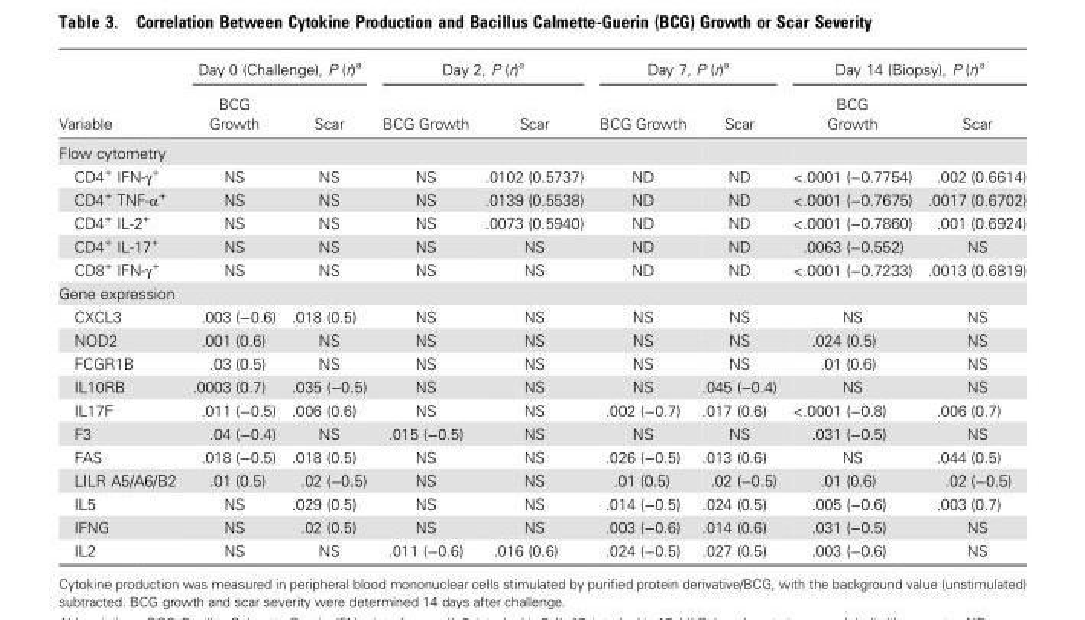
<table><thead><tr><td rowspan="2">Variable</td><td colspan="2">Day 0 (Challenge), P (r)<sup>a</sup></td><td colspan="2">Day 2, P (r)<sup>a</sup></td><td colspan="2">Day 7, P (r)<sup>a</sup></td><td colspan="2">Day 14 (Biopsy), P (r)<sup>a</sup></td></tr><tr><td>BCG Growth</td><td>Scar</td><td>BCG Growth</td><td>Scar</td><td>BCG Growth</td><td>Scar</td><td>BCG Growth</td><td>Scar</td></tr></thead><tbody><tr><td colspan="9">Flow cytometry</td></tr><tr><td>CD4<sup>+</sup> IFN-γ<sup>+</sup></td><td>NS</td><td>NS</td><td>NS</td><td>.0102 (0.5737)</td><td>ND</td><td>ND</td><td>&lt;.0001 (−0.7754)</td><td>.002 (0.6614)</td></tr><tr><td>CD4<sup>+</sup> TNF-α<sup>+</sup></td><td>NS</td><td>NS</td><td>NS</td><td>.0139 (0.5538)</td><td>ND</td><td>ND</td><td>&lt;.0001 (−0.7675)</td><td>.0017 (0.6702)</td></tr><tr><td>CD4<sup>+</sup> IL-2<sup>+</sup></td><td>NS</td><td>NS</td><td>NS</td><td>.0073 (0.5940)</td><td>ND</td><td>ND</td><td>&lt;.0001 (−0.7860)</td><td>.001 (0.6924)</td></tr><tr><td>CD4<sup>+</sup> IL-17<sup>+</sup></td><td>NS</td><td>NS</td><td>NS</td><td>NS</td><td>ND</td><td>ND</td><td>.0063 (−0.552)</td><td>NS</td></tr><tr><td>CD8<sup>+</sup> IFN-γ<sup>+</sup></td><td>NS</td><td>NS</td><td>NS</td><td>NS</td><td>ND</td><td>ND</td><td>&lt;.0001 (−0.7233)</td><td>.0013 (0.6819)</td></tr><tr><td colspan="9">Gene expression</td></tr><tr><td>CXCL3</td><td>.003 (−0.6)</td><td>.018 (0.5)</td><td>NS</td><td>NS</td><td>NS</td><td>NS</td><td>NS</td><td>NS</td></tr><tr><td>NOD2</td><td>.001 (0.6)</td><td>NS</td><td>NS</td><td>NS</td><td>NS</td><td>NS</td><td>.024 (0.5)</td><td>NS</td></tr><tr><td>FCGR1B</td><td>.03 (0.5)</td><td>NS</td><td>NS</td><td>NS</td><td>NS</td><td>NS</td><td>.01 (0.6)</td><td>NS</td></tr><tr><td>IL10RB</td><td>.0003 (0.7)</td><td>.035 (−0.5)</td><td>NS</td><td>NS</td><td>NS</td><td>.045 (−0.4)</td><td>NS</td><td>NS</td></tr><tr><td>IL17F</td><td>.011 (−0.5)</td><td>.006 (0.6)</td><td>NS</td><td>NS</td><td>.002 (−0.7)</td><td>.017 (0.6)</td><td>&lt;.0001 (−0.8)</td><td>.006 (0.7)</td></tr><tr><td>F3</td><td>.04 (−0.4)</td><td>NS</td><td>.015 (−0.5)</td><td>NS</td><td>NS</td><td>NS</td><td>.031 (−0.5)</td><td>NS</td></tr><tr><td>FAS</td><td>.018 (−0.5)</td><td>.018 (0.5)</td><td>NS</td><td>NS</td><td>.026 (−0.5)</td><td>.013 (0.6)</td><td>NS</td><td>.044 (0.5)</td></tr><tr><td>LILR A5/A6/B2</td><td>.01 (0.5)</td><td>.02 (−0.5)</td><td>NS</td><td>NS</td><td>.01 (0.5)</td><td>.02 (−0.5)</td><td>.01 (0.6)</td><td>.02 (−0.5)</td></tr><tr><td>IL5</td><td>NS</td><td>.029 (0.5)</td><td>NS</td><td>NS</td><td>.014 (−0.5)</td><td>.024 (0.5)</td><td>.005 (−0.6)</td><td>.003 (0.7)</td></tr><tr><td>IFNG</td><td>NS</td><td>.02 (0.5)</td><td>NS</td><td>NS</td><td>.003 (−0.6)</td><td>.014 (0.6)</td><td>.031 (−0.5)</td><td>NS</td></tr><tr><td>IL2</td><td>NS</td><td>NS</td><td>.011 (−0.6)</td><td>.016 (0.6)</td><td>.024 (−0.5)</td><td>.027 (0.5)</td><td>.003 (−0.6)</td><td>NS</td></tr></tbody></table>